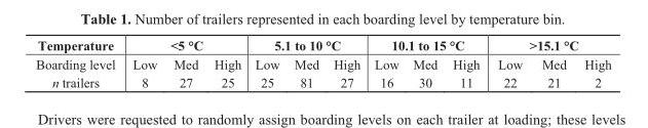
<table><thead><tr><td rowspan="2">Temperature Boarding level</td><td colspan="3">&lt;5 °C</td><td colspan="3">5.1 to 10 °C</td><td colspan="3">10.1 to 15 °C</td><td colspan="3">&gt;15.1 °C</td></tr><tr><td>Low</td><td>Med</td><td>High</td><td>Low</td><td>Med</td><td>High</td><td>Low</td><td>Med</td><td>High</td><td>Low</td><td>Med</td><td>High</td></tr></thead><tbody><tr><td>n trailers</td><td>8</td><td>27</td><td>25</td><td>25</td><td>81</td><td>27</td><td>16</td><td>30</td><td>11</td><td>22</td><td>21</td><td>2</td></tr></tbody></table>